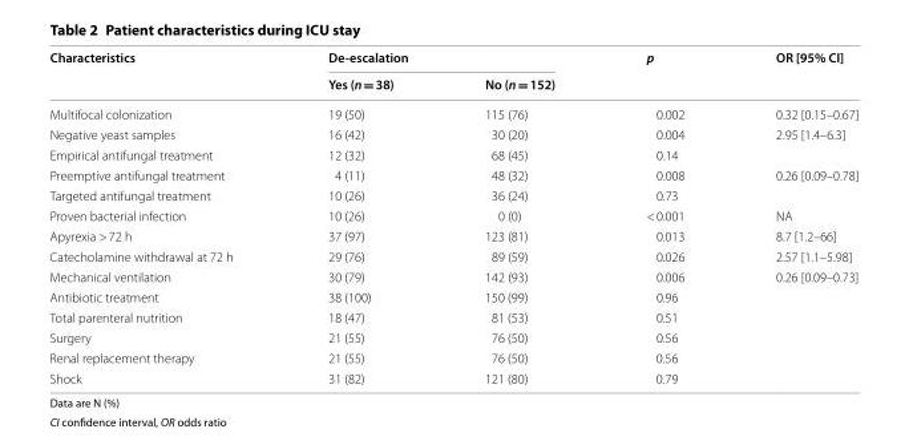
<table><thead><tr><td rowspan="2">Characteristics</td><td colspan="2">De‑escalation</td><td rowspan="2">p</td><td rowspan="2">OR [95% CI]</td></tr><tr><td>Yes (n = 38)</td><td>No (n = 152)</td></tr></thead><tbody><tr><td>Multifocal colonization</td><td>19 (50)</td><td>115 (76)</td><td>0.002</td><td>0.32 [0.15–0.67]</td></tr><tr><td>Negative yeast samples</td><td>16 (42)</td><td>30 (20)</td><td>0.004</td><td>2.95 [1.4–6.3]</td></tr><tr><td>Empirical antifungal treatment</td><td>12 (32)</td><td>68 (45)</td><td>0.14</td><td></td></tr><tr><td>Preemptive antifungal treatment</td><td>4 (11)</td><td>48 (32)</td><td>0.008</td><td>0.26 [0.09–0.78]</td></tr><tr><td>Targeted antifungal treatment</td><td>10 (26)</td><td>36 (24)</td><td>0.73</td><td></td></tr><tr><td>Proven bacterial infection</td><td>10 (26)</td><td>0 (0)</td><td>&lt; 0.001</td><td>NA</td></tr><tr><td>Apyrexia &gt; 72 h</td><td>37 (97)</td><td>123 (81)</td><td>0.013</td><td>8.7 [1.2–66]</td></tr><tr><td>Catecholamine withdrawal at 72 h</td><td>29 (76)</td><td>89 (59)</td><td>0.026</td><td>2.57 [1.1–5.98]</td></tr><tr><td>Mechanical ventilation</td><td>30 (79)</td><td>142 (93)</td><td>0.006</td><td>0.26 [0.09–0.73]</td></tr><tr><td>Antibiotic treatment</td><td>38 (100)</td><td>150 (99)</td><td>0.96</td><td></td></tr><tr><td>Total parenteral nutrition</td><td>18 (47)</td><td>81 (53)</td><td>0.51</td><td></td></tr><tr><td>Surgery</td><td>21 (55)</td><td>76 (50)</td><td>0.56</td><td></td></tr><tr><td>Renal replacement therapy</td><td>21 (55)</td><td>76 (50)</td><td>0.56</td><td></td></tr><tr><td>Shock</td><td>31 (82)</td><td>121 (80)</td><td>0.79</td><td></td></tr></tbody></table>